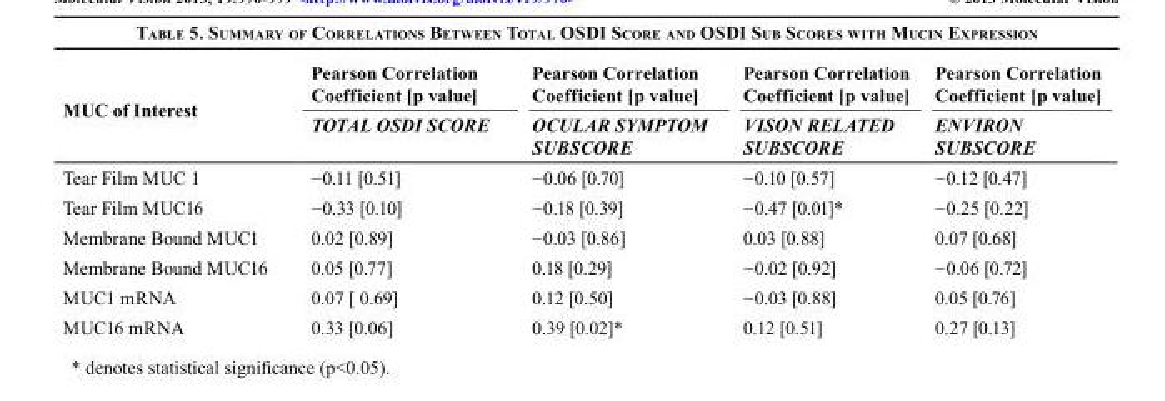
<table><thead><tr><td rowspan="2">MUC of Interest</td><td rowspan="2">Pearson Correlation Coefficient [p value] TOTAL OSDI SCORE</td><td rowspan="2">Pearson Correlation Coefficient [p value] OCULAR SYMPTOM SUBSCORE</td><td rowspan="2">Pearson Correlation Coefficient [p value] VISON RELATED SUBSCORE</td><td rowspan="2">Pearson Correlation Coefficient [p value] ENVIRON SUBSCORE</td></tr><tr></tr></thead><tbody><tr><td>Tear Film MUC 1</td><td>−0.11 [0.51]</td><td>−0.06 [0.70]</td><td>−0.10 [0.57]</td><td>−0.12 [0.47]</td></tr><tr><td>Tear Film MUC16</td><td>−0.33 [0.10]</td><td>−0.18 [0.39]</td><td>−0.47 [0.01]*</td><td>−0.25 [0.22]</td></tr><tr><td>Membrane Bound MUC1</td><td>0.02 [0.89]</td><td>−0.03 [0.86]</td><td>0.03 [0.88]</td><td>0.07 [0.68]</td></tr><tr><td>Membrane Bound MUC16</td><td>0.05 [0.77]</td><td>0.18 [0.29]</td><td>−0.02 [0.92]</td><td>−0.06 [0.72]</td></tr><tr><td>MUC1 mRNA</td><td>0.07 [ 0.69]</td><td>0.12 [0.50]</td><td>−0.03 [0.88]</td><td>0.05 [0.76]</td></tr><tr><td>MUC16 mRNA</td><td>0.33 [0.06]</td><td>0.39 [0.02]*</td><td>0.12 [0.51]</td><td>0.27 [0.13]</td></tr></tbody></table>